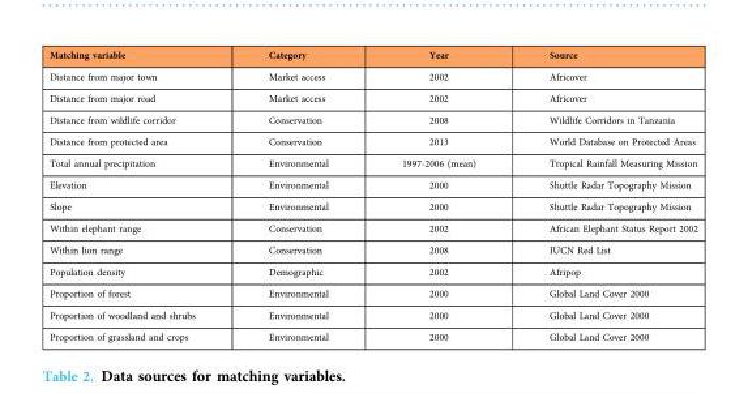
<table><thead><tr><td>Matching variable</td><td>Category</td><td>Year</td><td>Source</td></tr></thead><tbody><tr><td>Distance from major town</td><td>Market access</td><td>2002</td><td>Africover</td></tr><tr><td>Distance from major road</td><td>Market access</td><td>2002</td><td>Africover</td></tr><tr><td>Distance from wildlife corridor</td><td>Conservation</td><td>2008</td><td>Wildlife Corridors in Tanzania</td></tr><tr><td>Distance from protected area</td><td>Conservation</td><td>2013</td><td>World Database on Protected Areas</td></tr><tr><td>Total annual precipitation</td><td>Environmental</td><td>1997-2006 (mean)</td><td>Tropical Rainfall Measuring Mission</td></tr><tr><td>Elevation</td><td>Environmental</td><td>2000</td><td>Shuttle Radar Topography Mission</td></tr><tr><td>Slope</td><td>Environmental</td><td>2000</td><td>Shuttle Radar Topography Mission</td></tr><tr><td>Within elephant range</td><td>Conservation</td><td>2002</td><td>African Elephant Status Report 2002</td></tr><tr><td>Within lion range</td><td>Conservation</td><td>2008</td><td>IUCN Red List</td></tr><tr><td>Population density</td><td>Demographic</td><td>2002</td><td>Afripop</td></tr><tr><td>Proportion of forest</td><td>Environmental</td><td>2000</td><td>Global Land Cover 2000</td></tr><tr><td>Proportion of woodland and shrubs</td><td>Environmental</td><td>2000</td><td>Global Land Cover 2000</td></tr><tr><td>Proportion of grassland and crops</td><td>Environmental</td><td>2000</td><td>Global Land Cover 2000</td></tr></tbody></table>